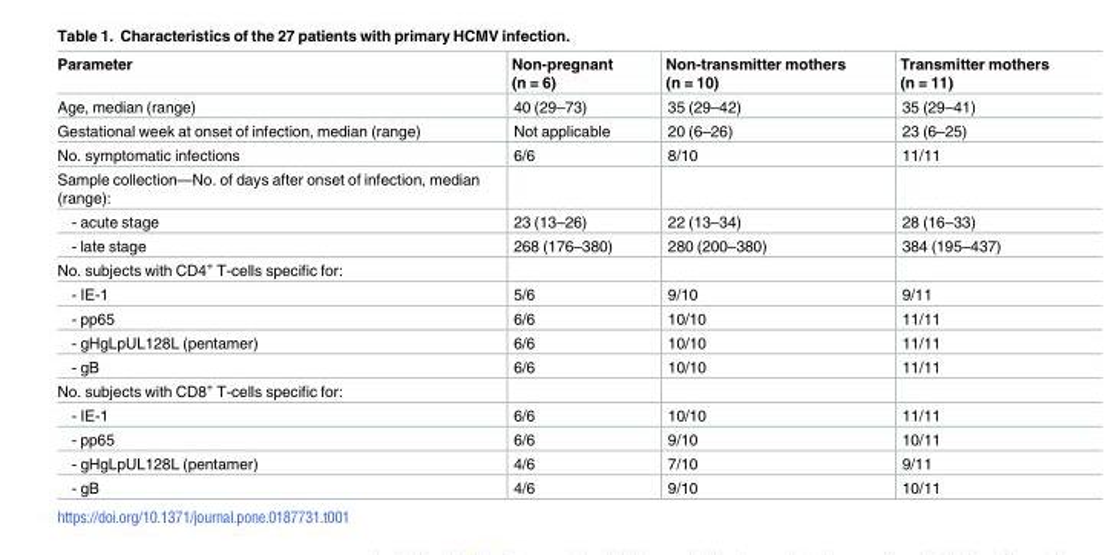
<table><thead><tr><td>Parameter</td><td>Non-pregnant (n = 6)</td><td>Non-transmitter mothers (n = 10)</td><td>Transmitter mothers (n = 11)</td></tr></thead><tbody><tr><td>Age, median (range)</td><td>40 (29–73)</td><td>35 (29–42)</td><td>35 (29–41)</td></tr><tr><td>Gestational week at onset of infection, median (range)</td><td>Not applicable</td><td>20 (6–26)</td><td>23 (6–25)</td></tr><tr><td>No. symptomatic infections</td><td>6/6</td><td>8/10</td><td>11/11</td></tr><tr><td colspan="4">Sample collection—No. of days after onset of infection, median (range):</td></tr><tr><td>- acute stage</td><td>23 (13–26)</td><td>22 (13–34)</td><td>28 (16–33)</td></tr><tr><td>- late stage</td><td>268 (176–380)</td><td>280 (200–380)</td><td>384 (195–437)</td></tr><tr><td colspan="4">No. subjects with CD4<sup>+</sup> T-cells specific for:</td></tr><tr><td>- IE-1</td><td>5/6</td><td>9/10</td><td>9/11</td></tr><tr><td>- pp65</td><td>6/6</td><td>10/10</td><td>11/11</td></tr><tr><td>- gHgLpUL128L (pentamer)</td><td>6/6</td><td>10/10</td><td>11/11</td></tr><tr><td>- gB</td><td>6/6</td><td>10/10</td><td>11/11</td></tr><tr><td colspan="4">No. subjects with CD8<sup>+</sup> T-cells specific for:</td></tr><tr><td>- IE-1</td><td>6/6</td><td>10/10</td><td>11/11</td></tr><tr><td>- pp65</td><td>6/6</td><td>9/10</td><td>10/11</td></tr><tr><td>- gHgLpUL128L (pentamer)</td><td>4/6</td><td>7/10</td><td>9/11</td></tr><tr><td>- gB</td><td>4/6</td><td>9/10</td><td>10/11</td></tr></tbody></table>